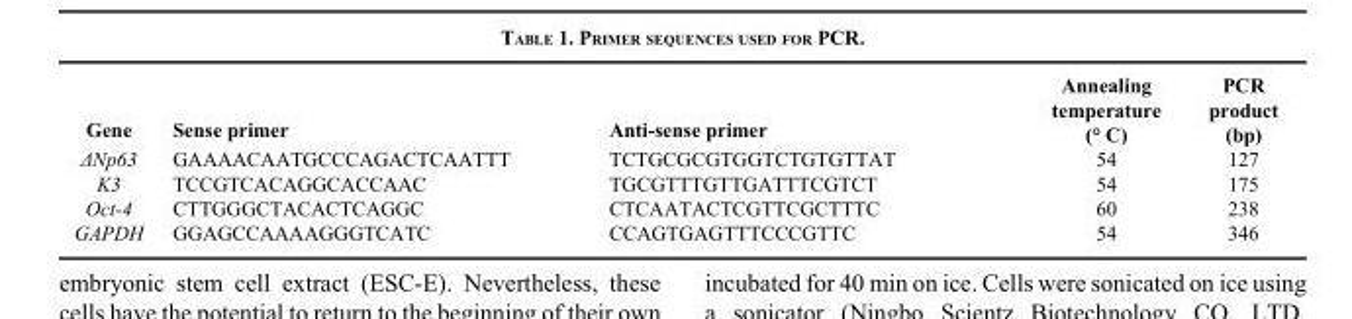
<table><thead><tr><td>Gene</td><td>Sense primer</td><td>Anti-sense primer</td><td>Annealing temperature (° C)</td><td>PCR product (bp)</td></tr></thead><tbody><tr><td>ΔNp63</td><td>GAAAACAATGCCCAGACTCAATTT</td><td>TCTGCGCGTGGTCTGTGTTAT</td><td>54</td><td>127</td></tr><tr><td>K3</td><td>TCCGTCACAGGCACCAAC</td><td>TGCGTTTGTTGATTTCGTCT</td><td>54</td><td>175</td></tr><tr><td>Oct-4</td><td>CTTGGGCTACACTCAGGC</td><td>CTCAATACTCGTTCGCTTTC</td><td>60</td><td>238</td></tr><tr><td>GAPDH</td><td>GGAGCCAAAAGGGTCATC</td><td>CCAGTGAGTTTCCCGTTC</td><td>54</td><td>346</td></tr></tbody></table>